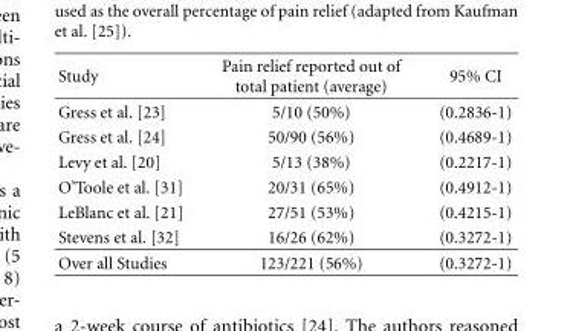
<table><thead><tr><td>Study</td><td>Pain relief reported out of total patient (average)</td><td>95% CI</td></tr></thead><tbody><tr><td>Gress et al. [23]</td><td>5/10 (50%)</td><td>(0.2836-1)</td></tr><tr><td>Gress et al. [24]</td><td>50/90 (56%)</td><td>(0.4689-1)</td></tr><tr><td>Levy et al. [20]</td><td>5/13 (38%)</td><td>(0.2217-1)</td></tr><tr><td>O’Toole et al. [31]</td><td>20/31 (65%)</td><td>(0.4912-1)</td></tr><tr><td>LeBlanc et al. [21]</td><td>27/51 (53%)</td><td>(0.4215-1)</td></tr><tr><td>Stevens et al. [32]</td><td>16/26 (62%)</td><td>(0.3272-1)</td></tr><tr><td>Over all Studies</td><td>123/221 (56%)</td><td>(0.3272-1)</td></tr></tbody></table>